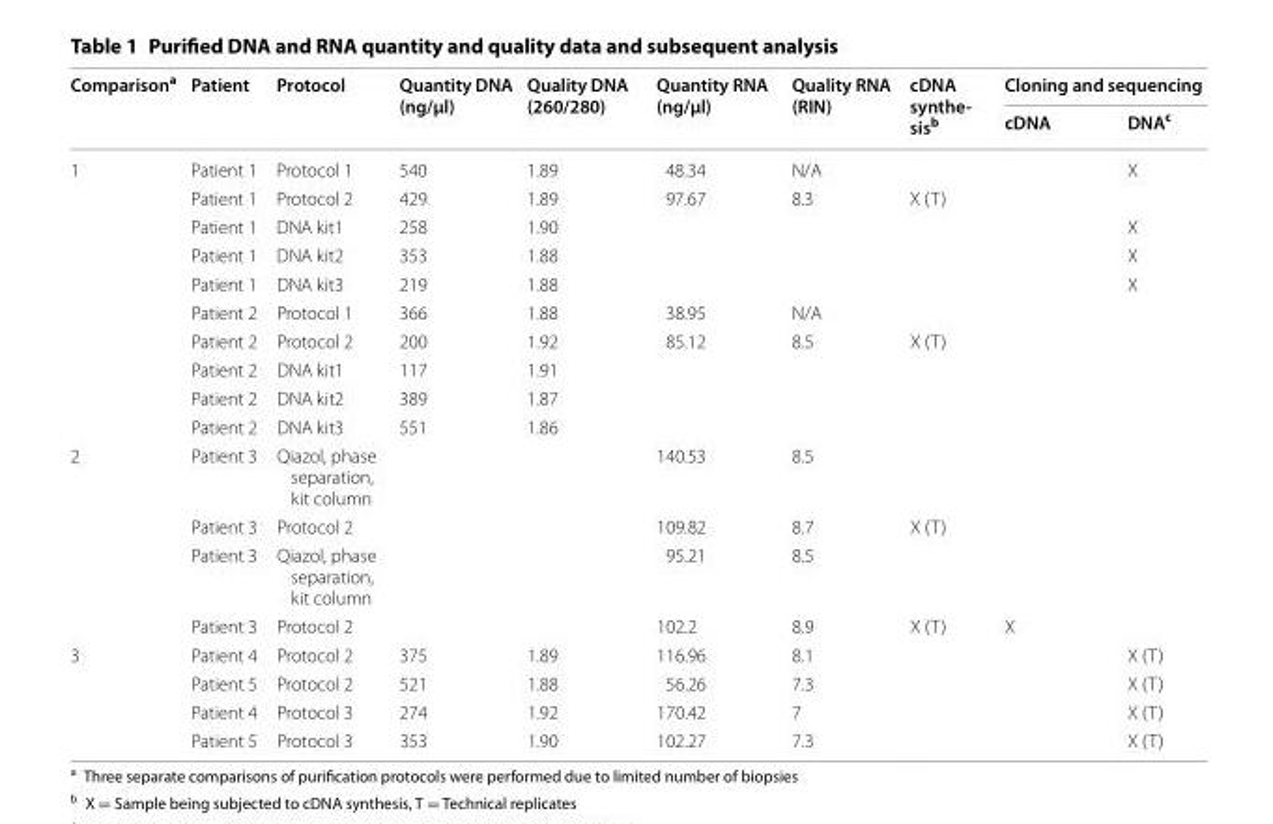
<table><thead><tr><td rowspan="2">Comparison<sup>a</sup></td><td rowspan="2">Patient</td><td rowspan="2">Protocol</td><td rowspan="2">Quantity DNA (ng/µl)</td><td rowspan="2">Quality DNA (260/280)</td><td rowspan="2">Quantity RNA (ng/µl)</td><td rowspan="2">Quality RNA (RIN)</td><td rowspan="2">cDNA synthe- sisb</td><td colspan="2">Cloning and sequencing</td></tr><tr><td>cDNA</td><td>DNA<sup>c</sup></td></tr></thead><tbody><tr><td rowspan="10">1</td><td>Patient 1</td><td>Protocol 1</td><td>540</td><td>1.89</td><td>48.34</td><td>N/A</td><td></td><td></td><td>X</td></tr><tr><td>Patient 1</td><td>Protocol 2</td><td>429</td><td>1.89</td><td>97.67</td><td>8.3</td><td>X (T)</td><td></td><td></td></tr><tr><td>Patient 1</td><td>DNA kit1</td><td>258</td><td>1.90</td><td></td><td></td><td></td><td></td><td>X</td></tr><tr><td>Patient 1</td><td>DNA kit2</td><td>353</td><td>1.88</td><td></td><td></td><td></td><td></td><td>X</td></tr><tr><td>Patient 1</td><td>DNA kit3</td><td>219</td><td>1.88</td><td></td><td></td><td></td><td></td><td>X</td></tr><tr><td>Patient 2</td><td>Protocol 1</td><td>366</td><td>1.88</td><td>38.95</td><td>N/A</td><td></td><td></td><td></td></tr><tr><td>Patient 2</td><td>Protocol 2</td><td>200</td><td>1.92</td><td>85.12</td><td>8.5</td><td>X (T)</td><td></td><td></td></tr><tr><td>Patient 2</td><td>DNA kit1</td><td>117</td><td>1.91</td><td></td><td></td><td></td><td></td><td></td></tr><tr><td>Patient 2</td><td>DNA kit2</td><td>389</td><td>1.87</td><td></td><td></td><td></td><td></td><td></td></tr><tr><td>Patient 2</td><td>DNA kit3</td><td>551</td><td>1.86</td><td></td><td></td><td></td><td></td><td></td></tr><tr><td rowspan="4">2</td><td>Patient 3</td><td>Qiazol, phase separation, kit column</td><td></td><td></td><td>140.53</td><td>8.5</td><td></td><td></td><td></td></tr><tr><td>Patient 3</td><td>Protocol 2</td><td></td><td></td><td>109.82</td><td>8.7</td><td>X (T)</td><td></td><td></td></tr><tr><td>Patient 3</td><td>Qiazol, phase separation, kit column</td><td></td><td></td><td>95.21</td><td>8.5</td><td></td><td></td><td></td></tr><tr><td>Patient 3</td><td>Protocol 2</td><td></td><td></td><td>102.2</td><td>8.9</td><td>X (T)</td><td>X</td><td></td></tr><tr><td rowspan="4">3</td><td>Patient 4</td><td>Protocol 2</td><td>375</td><td>1.89</td><td>116.96</td><td>8.1</td><td></td><td></td><td>X (T)</td></tr><tr><td>Patient 5</td><td>Protocol 2</td><td>521</td><td>1.88</td><td>56.26</td><td>7.3</td><td></td><td></td><td>X (T)</td></tr><tr><td>Patient 4</td><td>Protocol 3</td><td>274</td><td>1.92</td><td>170.42</td><td>7</td><td></td><td></td><td>X (T)</td></tr><tr><td>Patient 5</td><td>Protocol 3</td><td>353</td><td>1.90</td><td>102.27</td><td>7.3</td><td></td><td></td><td>X (T)</td></tr></tbody></table>